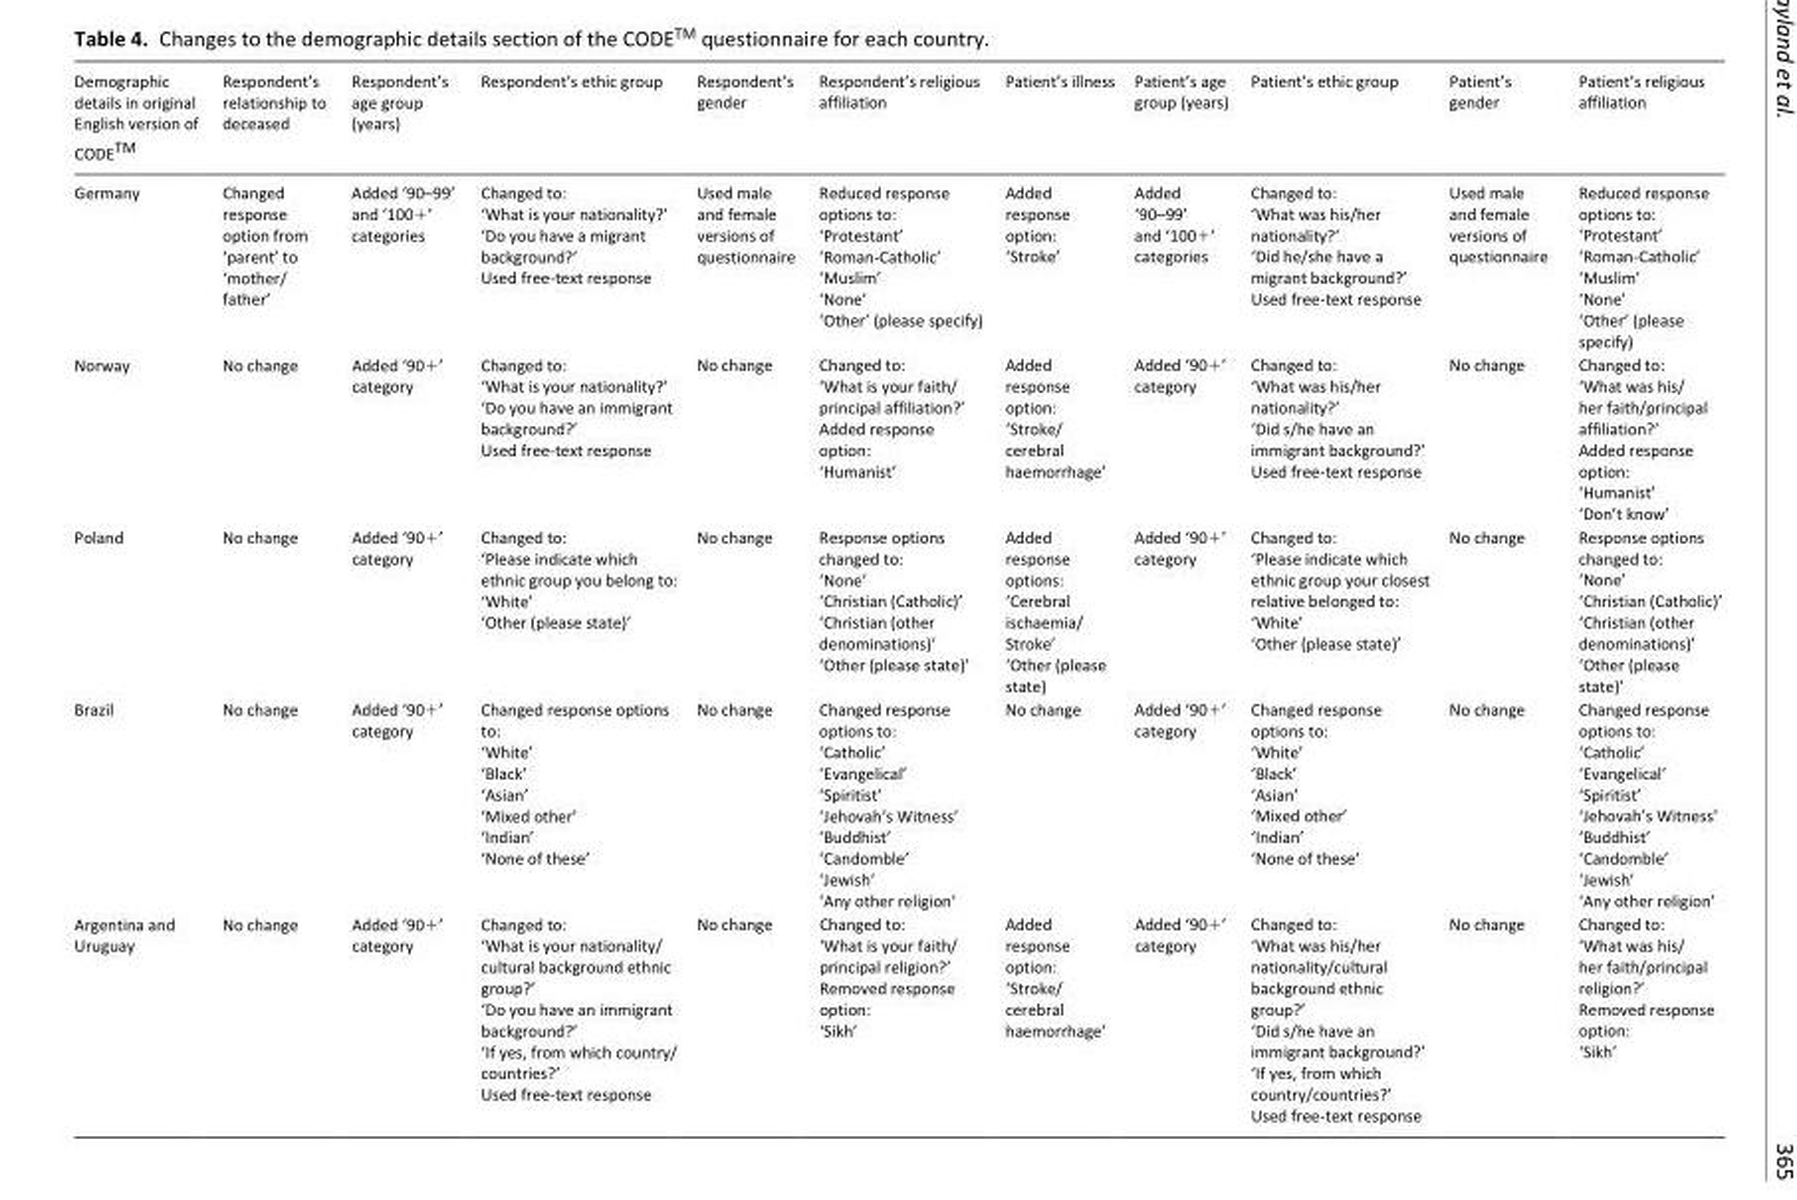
<table><thead><tr><td>Demographic details in original English version of CODE<sup>TM</sup></td><td>Respondent’s relationship to deceased</td><td>Respondent’s age group (years)</td><td>Respondent’s ethic group</td><td>Respondent’s gender</td><td>Respondent’s religious affiliation</td><td>Patient’s illness</td><td>Patient’s age group (years)</td><td>Patient’s ethic group</td><td>Patient’s gender</td><td>Patient’s religious affiliation</td></tr></thead><tbody><tr><td>Germany</td><td>Changed response option from ‘parent’ to ‘mother/ father’</td><td>Added ‘90–99’ and ‘100+’ categories</td><td>Changed to: ‘What is your nationality?’ ‘Do you have a migrant background?’ Used free-text response</td><td>Used male and female versions of questionnaire</td><td>Reduced response options to: ‘Protestant’ ‘Roman-Catholic’ ‘Muslim’ ‘None’ ‘Other’ (please specify)</td><td>Added response option: ‘Stroke’</td><td>Added ‘90–99’ and ‘100+’ categories</td><td>Changed to: ‘What was his/her nationality?’ ‘Did he/she have a migrant background?’ Used free-text response</td><td>Used male and female versions of questionnaire</td><td>Reduced response options to: ‘Protestant’ ‘Roman-Catholic’ ‘Muslim’ ‘None’ ‘Other’ (please specify)</td></tr><tr><td>Norway</td><td>No change</td><td>Added ‘90+’ category</td><td>Changed to: ‘What is your nationality?’ ‘Do you have an immigrant background?’ Used free-text response</td><td>No change</td><td>Changed to: ‘What is your faith/ principal affiliation?’ Added response option: ‘Humanist’</td><td>Added response option: ‘Stroke/ cerebral haemorrhage’</td><td>Added ‘90+’ category</td><td>Changed to: ‘What was his/her nationality?’ ‘Did s/he have an immigrant background?’ Used free-text response</td><td>No change</td><td>Changed to: ‘What was his/ her faith/principal affiliation?’ Added response option: ‘Humanist’ ‘Don’t know’</td></tr><tr><td>Poland</td><td>No change</td><td>Added ‘90+’ category</td><td>Changed to: ‘Please indicate which ethnic group you belong to: ‘White’ ‘Other (please state)’</td><td>No change</td><td>Response options changed to: ‘None’ ‘Christian (Catholic)’ ‘Christian (other denominations)’ ‘Other (please state)’</td><td>Added response options: ‘Cerebral ischaemia/ Stroke’ ‘Other (please state)</td><td>Added ‘90+’ category</td><td>Changed to: ‘Please indicate which ethnic group your closest relative belonged to: ‘White’ ‘Other (please state)’</td><td>No change</td><td>Response options changed to: ‘None’ ‘Christian (Catholic)’ ‘Christian (other denominations)’ ‘Other (please state)’</td></tr><tr><td>Brazil</td><td>No change</td><td>Added ‘90+’ category</td><td>Changed response options to: ‘White’ ‘Black’ ‘Asian’ ‘Mixed other’ ‘Indian’ ‘None of these’</td><td>No change</td><td>Changed response options to: ‘Catholic’ ‘Evangelical’ ‘Spiritist’ ‘Jehovah’s Witness’ ‘Buddhist’ ‘Candomble’ ‘Jewish’ ‘Any other religion’</td><td>No change</td><td>Added ‘90+’ category</td><td>Changed response options to: ‘White’ ‘Black’ ‘Asian’ ‘Mixed other’ ‘Indian’ ‘None of these’</td><td>No change</td><td>Changed response options to: ‘Catholic’ ‘Evangelical’ ‘Spiritist’ ‘Jehovah’s Witness’ ‘Buddhist’ ‘Candomble’ ‘Jewish’ ‘Any other religion’</td></tr><tr><td>Argentina and Uruguay</td><td>No change</td><td>Added ‘90+’ category</td><td>Changed to: ‘What is your nationality/ cultural background ethnic group?’ ‘Do you have an immigrant background?’ ‘If yes, from which country/ countries?’ Used free-text response</td><td>No change</td><td>Changed to: ‘What is your faith/ principal religion?’ Removed response option: ‘Sikh’</td><td>Added response option: ‘Stroke/ cerebral haemorrhage’</td><td>Added ‘90+’ category</td><td>Changed to: ‘What was his/her nationality/cultural background ethnic group?’ ‘Did s/he have an immigrant background?’ ‘If yes, from which country/countries?’ Used free-text response</td><td>No change</td><td>Changed to: ‘What was his/ her faith/principal religion?’ Removed response option: ‘Sikh’</td></tr></tbody></table>